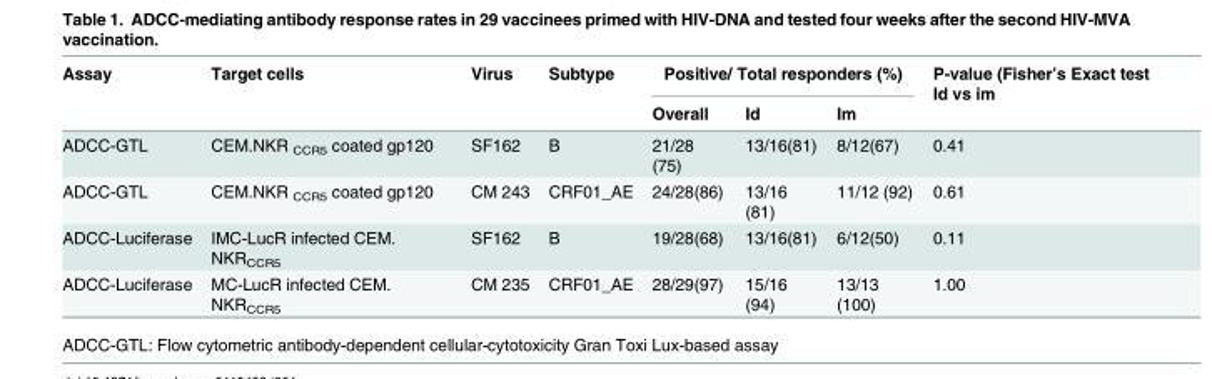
<table><thead><tr><td rowspan="2">Assay</td><td rowspan="2">Target cells</td><td rowspan="2">Virus</td><td rowspan="2">Subtype</td><td colspan="3">Positive/ Total responders (%)</td><td rowspan="2">P-value (Fisher’s Exact test Id vs im</td></tr><tr><td>Overall</td><td>Id</td><td>Im</td></tr></thead><tbody><tr><td>ADCC-GTL</td><td>CEM.NKR <sub>CCR5</sub> coated gp120</td><td>SF162</td><td>B</td><td>21/28 (75)</td><td>13/16(81)</td><td>8/12(67)</td><td>0.41</td></tr><tr><td>ADCC-GTL</td><td>CEM.NKR <sub>CCR5</sub> coated gp120</td><td>CM 243</td><td>CRF01_AE</td><td>24/28(86)</td><td>13/16 (81)</td><td>11/12 (92)</td><td>0.61</td></tr><tr><td>ADCC-Luciferase</td><td>IMC-LucR infected CEM. NKR<sub>CCR5</sub></td><td>SF162</td><td>B</td><td>19/28(68)</td><td>13/16(81)</td><td>6/12(50)</td><td>0.11</td></tr><tr><td>ADCC-Luciferase</td><td>MC-LucR infected CEM. NKR<sub>CCR5</sub></td><td>CM 235</td><td>CRF01_AE</td><td>28/29(97)</td><td>15/16 (94)</td><td>13/13 (100)</td><td>1.00</td></tr></tbody></table>